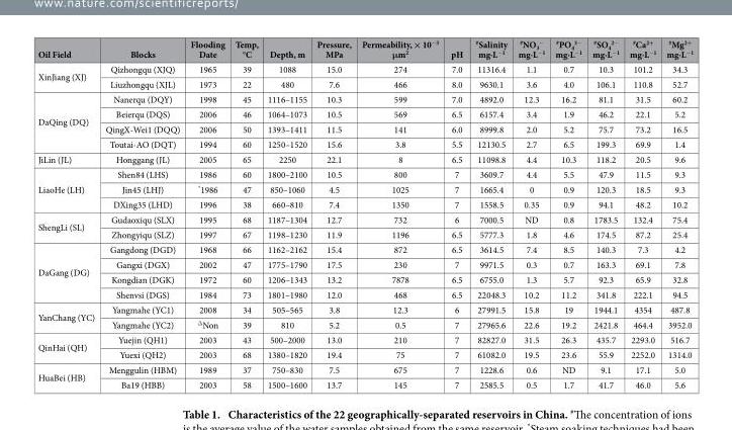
<table><thead><tr><td>Oil Field</td><td>Blocks</td><td>Flooding Date</td><td>Temp, °C</td><td>Depth, m</td><td>Pressure, MPa</td><td>Permeability, × 10<sup>−3</sup> μm<sup>2</sup></td><td>pH</td><td>#Salinity mg·L<sup>−1</sup></td><td>#NO<sub>3</sub> <sup>−</sup> mg·L<sup>−1</sup></td><td>#PO<sub>4</sub> <sup>3−</sup> mg·L<sup>−1</sup></td><td>#SO<sub>4</sub> <sup>2−</sup> mg·L<sup>−1</sup></td><td>#Ca<sup>2+</sup> mg·L<sup>−1</sup></td><td>#Mg<sup>2+</sup> mg·L<sup>−1</sup></td></tr></thead><tbody><tr><td rowspan="2">XinJiang (XJ)</td><td>Qizhongqu (XJQ)</td><td>1965</td><td>39</td><td>1088</td><td>15.0</td><td>274</td><td>7.0</td><td>11316.4</td><td>1.1</td><td>0.7</td><td>10.3</td><td>101.2</td><td>34.3</td></tr><tr><td>Liuzhongqu (XJL)</td><td>1973</td><td>22</td><td>480</td><td>7.6</td><td>466</td><td>8.0</td><td>9630.1</td><td>3.6</td><td>4.0</td><td>106.1</td><td>110.8</td><td>52.7</td></tr><tr><td rowspan="4">DaQing (DQ)</td><td>Nanerqu (DQY)</td><td>1998</td><td>45</td><td>1116–1155</td><td>10.3</td><td>599</td><td>7.0</td><td>4892.0</td><td>12.3</td><td>16.2</td><td>81.1</td><td>31.5</td><td>60.2</td></tr><tr><td>Beierqu (DQS)</td><td>2006</td><td>46</td><td>1064–1073</td><td>10.5</td><td>569</td><td>6.5</td><td>6157.4</td><td>3.4</td><td>1.9</td><td>46.2</td><td>22.1</td><td>5.2</td></tr><tr><td>QingX-Wei1 (DQQ)</td><td>2006</td><td>50</td><td>1393–1411</td><td>11.5</td><td>141</td><td>6.0</td><td>8999.8</td><td>2.0</td><td>5.2</td><td>75.7</td><td>73.2</td><td>16.5</td></tr><tr><td>Toutai-AO (DQT)</td><td>1994</td><td>60</td><td>1250–1520</td><td>15.6</td><td>3.8</td><td>5.5</td><td>12130.5</td><td>2.7</td><td>6.5</td><td>199.3</td><td>69.9</td><td>1.4</td></tr><tr><td>JiLin (JL)</td><td>Honggang (JL)</td><td>2005</td><td>65</td><td>2250</td><td>22.1</td><td>8</td><td>6.5</td><td>11098.8</td><td>4.4</td><td>10.3</td><td>118.2</td><td>20.5</td><td>9.6</td></tr><tr><td rowspan="3">LiaoHe (LH)</td><td>Shen84 (LHS)</td><td>1986</td><td>60</td><td>1800–2100</td><td>10.5</td><td>800</td><td>7</td><td>3609.7</td><td>4.4</td><td>5.5</td><td>47.9</td><td>11.5</td><td>9.3</td></tr><tr><td>Jin45 (LHJ)</td><td>*1986</td><td>47</td><td>850–1060</td><td>4.5</td><td>1025</td><td>7</td><td>1665.4</td><td>0</td><td>0.9</td><td>120.3</td><td>18.5</td><td>9.3</td></tr><tr><td>DXing35 (LHD)</td><td>1996</td><td>38</td><td>660–810</td><td>7.4</td><td>1350</td><td>7</td><td>1558.5</td><td>0.35</td><td>0.9</td><td>94.1</td><td>48.2</td><td>10.2</td></tr><tr><td rowspan="2">ShengLi (SL)</td><td>Gudaoxiqu (SLX)</td><td>1995</td><td>68</td><td>1187–1304</td><td>12.7</td><td>732</td><td>6</td><td>7000.5</td><td>ND</td><td>0.8</td><td>1783.5</td><td>132.4</td><td>75.4</td></tr><tr><td>Zhongyiqu (SLZ)</td><td>1997</td><td>67</td><td>1198–1230</td><td>11.9</td><td>1196</td><td>6.5</td><td>5777.3</td><td>1.8</td><td>4.6</td><td>174.5</td><td>87.2</td><td>25.4</td></tr><tr><td rowspan="4">DaGang (DG)</td><td>Gangdong (DGD)</td><td>1968</td><td>66</td><td>1162–2162</td><td>15.4</td><td>872</td><td>6.5</td><td>3614.5</td><td>7.4</td><td>8.5</td><td>140.3</td><td>7.3</td><td>4.2</td></tr><tr><td>Gangxi (DGX)</td><td>2002</td><td>47</td><td>1775–1790</td><td>17.5</td><td>230</td><td>7</td><td>9971.5</td><td>0.3</td><td>0.7</td><td>163.3</td><td>69.1</td><td>7.8</td></tr><tr><td>Kongdian (DGK)</td><td>1972</td><td>60</td><td>1206–1343</td><td>13.2</td><td>7878</td><td>6.5</td><td>6755.0</td><td>1.3</td><td>5.7</td><td>92.3</td><td>65.9</td><td>32.8</td></tr><tr><td>Shenvsi (DGS)</td><td>1984</td><td>73</td><td>1801–1980</td><td>12.0</td><td>468</td><td>6.5</td><td>22048.3</td><td>10.2</td><td>11.2</td><td>341.8</td><td>222.1</td><td>94.5</td></tr><tr><td rowspan="2">YanChang (YC)</td><td>Yangmahe (YC1)</td><td>2008</td><td>34</td><td>505–565</td><td>3.8</td><td>12.3</td><td>6</td><td>27991.5</td><td>15.8</td><td>19</td><td>1944.1</td><td>4354</td><td>487.8</td></tr><tr><td>Yangmahe (YC2)</td><td>ΔNon</td><td>39</td><td>810</td><td>5.2</td><td>0.5</td><td>7</td><td>27965.6</td><td>22.6</td><td>19.2</td><td>2421.8</td><td>464.4</td><td>3952.0</td></tr><tr><td rowspan="2">QinHai (QH)</td><td>Yuejin (QH1)</td><td>2003</td><td>43</td><td>500–2000</td><td>13.0</td><td>210</td><td>7</td><td>82827.0</td><td>31.5</td><td>26.3</td><td>435.7</td><td>2293.0</td><td>516.7</td></tr><tr><td>Yuexi (QH2)</td><td>2003</td><td>68</td><td>1380–1820</td><td>19.4</td><td>75</td><td>7</td><td>61082.0</td><td>19.5</td><td>23.6</td><td>55.9</td><td>2252.0</td><td>1314.0</td></tr><tr><td rowspan="2">HuaBei (HB)</td><td>Menggulin (HBM)</td><td>1989</td><td>37</td><td>750–830</td><td>7.5</td><td>675</td><td>7</td><td>1228.6</td><td>0.6</td><td>ND</td><td>9.1</td><td>17.1</td><td>5.0</td></tr><tr><td>Ba19 (HBB)</td><td>2003</td><td>58</td><td>1500–1600</td><td>13.7</td><td>145</td><td>7</td><td>2585.5</td><td>0.5</td><td>1.7</td><td>41.7</td><td>46.0</td><td>5.6</td></tr></tbody></table>